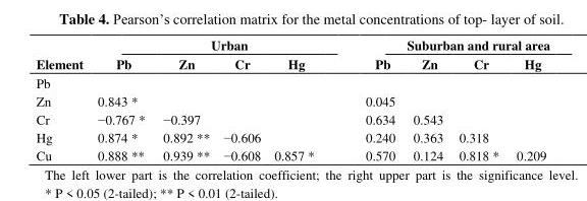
<table><thead><tr><td rowspan="2">Element</td><td colspan="4">Urban</td><td colspan="4">Suburban and rural area</td></tr><tr><td>Pb</td><td>Zn</td><td>Cr</td><td>Hg</td><td>Pb</td><td>Zn</td><td>Cr</td><td>Hg</td></tr></thead><tbody><tr><td colspan="9">Pb</td></tr><tr><td>Zn</td><td>0.843 *</td><td></td><td></td><td></td><td>0.045</td><td></td><td></td><td></td></tr><tr><td>Cr</td><td>−0.767 *</td><td>−0.397</td><td></td><td></td><td>0.634</td><td>0.543</td><td></td><td></td></tr><tr><td>Hg</td><td>0.874 *</td><td>0.892 **</td><td>−0.606</td><td></td><td>0.240</td><td>0.363</td><td>0.318</td><td></td></tr><tr><td>Cu</td><td>0.888 **</td><td>0.939 **</td><td>−0.608</td><td>0.857 *</td><td>0.570</td><td>0.124</td><td>0.818 *</td><td>0.209</td></tr></tbody></table>